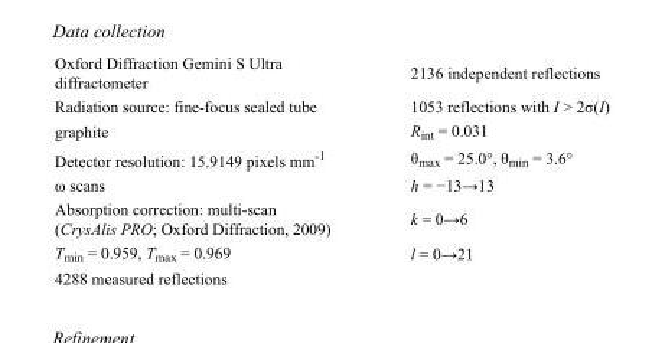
<table><tbody><tr><td>Oxford Diffraction Gemini S Ultra diffractometer</td><td>2136 independent reflections</td></tr><tr><td>Radiation source: fine-focus sealed tube</td><td>1053 reflections with I &gt; 2σ(I)</td></tr><tr><td>graphite</td><td>R<sub>int</sub> = 0.031</td></tr><tr><td>Detector resolution: 15.9149 pixels mm<sup>-1</sup></td><td>θ<sub>max</sub> = 25.0°, θ<sub>min</sub> = 3.6°</td></tr><tr><td>ω scans</td><td>h = −13→13</td></tr><tr><td>Absorption correction: multi-scan (CrysAlis PRO; Oxford Diffraction, 2009)</td><td>k = 0→6</td></tr><tr><td>T<sub>min</sub> = 0.959, T<sub>max</sub> = 0.969</td><td>l = 0→21</td></tr><tr><td>4288 measured reflections</td><td></td></tr></tbody></table>